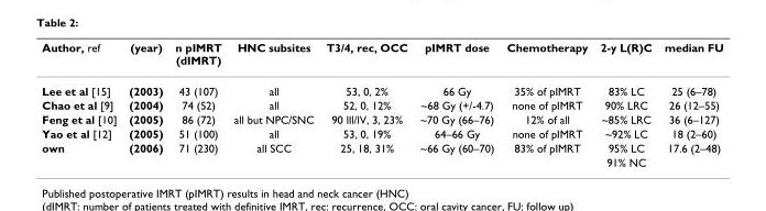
<table><thead><tr><td>Author, ref</td><td>(year)</td><td>n pIMRT (dIMRT)</td><td>HNC subsites</td><td>T3/4, rec, OCC</td><td>pIMRT dose</td><td>Chemotherapy</td><td>2-y L(R)C</td><td>median FU</td></tr></thead><tbody><tr><td>Lee et al [15]</td><td>(2003)</td><td>43 (107)</td><td>all</td><td>53, 0, 2%</td><td>66 Gy</td><td>35% of pIMRT</td><td>83% LC</td><td>25 (6–78)</td></tr><tr><td>Chao et al [9]</td><td>(2004)</td><td>74 (52)</td><td>all</td><td>52, 0, 12%</td><td>~68 Gy (+/-4.7)</td><td>none of pIMRT</td><td>90% LRC</td><td>26 (12–55)</td></tr><tr><td>Feng et al [10]</td><td>(2005)</td><td>86 (72)</td><td>all but NPC/SNC</td><td>90 lll/lV, 3, 23%</td><td>~70 Gy (66–76)</td><td>12% of all</td><td>~85% LRC</td><td>36 (6–127)</td></tr><tr><td>Yao et al [12]</td><td>(2005)</td><td>51 (100)</td><td>all</td><td>53, 0, 19%</td><td>64–66 Gy</td><td>none of pIMRT</td><td>~92% LC</td><td>18 (2–60)</td></tr><tr><td rowspan="2">own</td><td>(2006)</td><td>71 (230)</td><td>all SCC</td><td>25, 18, 31%</td><td>~66 Gy (60–70)</td><td>83% of pIMRT</td><td>95% LC</td><td>17.6 (2–48)</td></tr><tr><td></td><td></td><td></td><td></td><td></td><td></td><td>91% NC</td><td></td></tr></tbody></table>